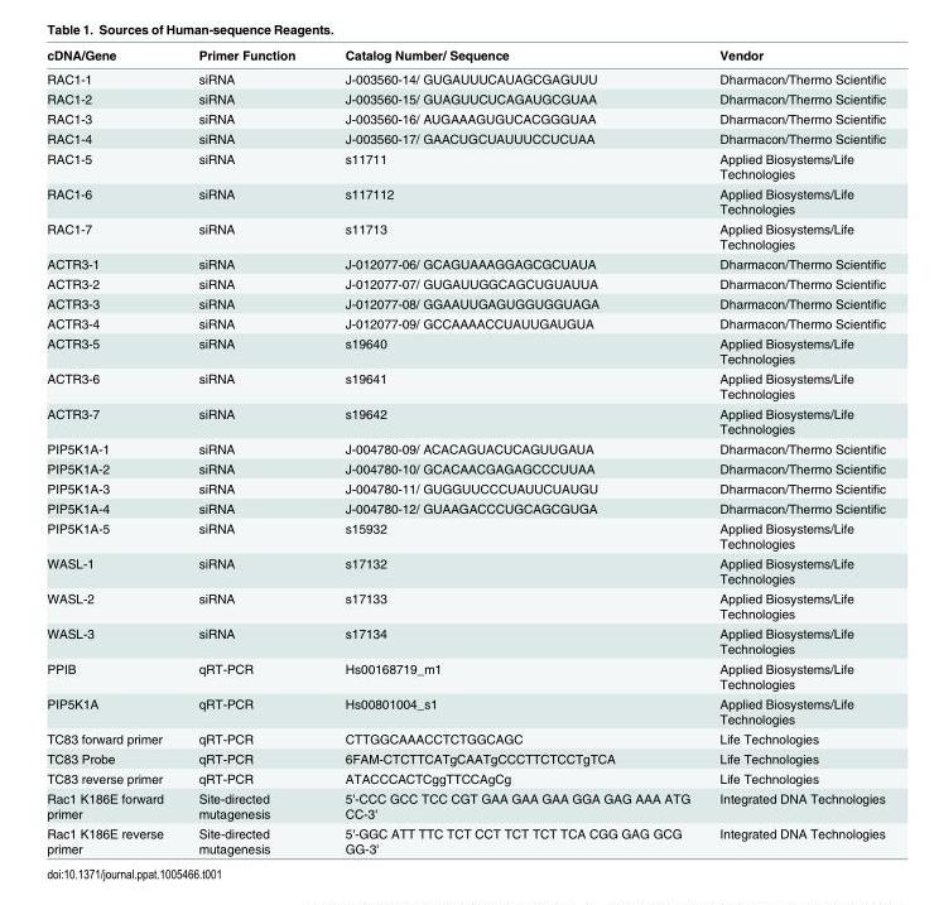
<table><thead><tr><td>cDNA/Gene</td><td>Primer Function</td><td>Catalog Number/ Sequence</td><td>Vendor</td></tr></thead><tbody><tr><td>RAC1-1</td><td>siRNA</td><td>J-003560-14/ GUGAUUUCAUAGCGAGUUU</td><td>Dharmacon/Thermo Scientific</td></tr><tr><td>RAC1-2</td><td>siRNA</td><td>J-003560-15/ GUAGUUCUCAGAUGCGUAA</td><td>Dharmacon/Thermo Scientific</td></tr><tr><td>RAC1-3</td><td>siRNA</td><td>J-003560-16/ AUGAAAGUGUCACGGGUAA</td><td>Dharmacon/Thermo Scientific</td></tr><tr><td>RAC1-4</td><td>siRNA</td><td>J-003560-17/ GAACUGCUAUUUCCUCUAA</td><td>Dharmacon/Thermo Scientific</td></tr><tr><td>RAC1-5</td><td>siRNA</td><td>s11711</td><td>Applied Biosystems/Life Technologies</td></tr><tr><td>RAC1-6</td><td>siRNA</td><td>s117112</td><td>Applied Biosystems/Life Technologies</td></tr><tr><td>RAC1-7</td><td>siRNA</td><td>s11713</td><td>Applied Biosystems/Life Technologies</td></tr><tr><td>ACTR3-1</td><td>siRNA</td><td>J-012077-06/ GCAGUAAAGGAGCGCUAUA</td><td>Dharmacon/Thermo Scientific</td></tr><tr><td>ACTR3-2</td><td>siRNA</td><td>J-012077-07/ GUGAUUGGCAGCUGUAUUA</td><td>Dharmacon/Thermo Scientific</td></tr><tr><td>ACTR3-3</td><td>siRNA</td><td>J-012077-08/ GGAAUUGAGUGGUGGUAGA</td><td>Dharmacon/Thermo Scientific</td></tr><tr><td>ACTR3-4</td><td>siRNA</td><td>J-012077-09/ GCCAAAACCUAUUGAUGUA</td><td>Dharmacon/Thermo Scientific</td></tr><tr><td>ACTR3-5</td><td>siRNA</td><td>s19640</td><td>Applied Biosystems/Life Technologies</td></tr><tr><td>ACTR3-6</td><td>siRNA</td><td>s19641</td><td>Applied Biosystems/Life Technologies</td></tr><tr><td>ACTR3-7</td><td>siRNA</td><td>s19642</td><td>Applied Biosystems/Life Technologies</td></tr><tr><td>PIP5K1A-1</td><td>siRNA</td><td>J-004780-09/ ACACAGUACUCAGUUGAUA</td><td>Dharmacon/Thermo Scientific</td></tr><tr><td>PIP5K1A-2</td><td>siRNA</td><td>J-004780-10/ GCACAACGAGAGCCCUUAA</td><td>Dharmacon/Thermo Scientific</td></tr><tr><td>PIP5K1A-3</td><td>siRNA</td><td>J-004780-11/ GUGGUUCCCUAUUCUAUGU</td><td>Dharmacon/Thermo Scientific</td></tr><tr><td>PIP5K1A-4</td><td>siRNA</td><td>J-004780-12/ GUAAGACCCUGCAGCGUGA</td><td>Dharmacon/Thermo Scientific</td></tr><tr><td>PIP5K1A-5</td><td>siRNA</td><td>s15932</td><td>Applied Biosystems/Life Technologies</td></tr><tr><td>WASL-1</td><td>siRNA</td><td>s17132</td><td>Applied Biosystems/Life Technologies</td></tr><tr><td>WASL-2</td><td>siRNA</td><td>s17133</td><td>Applied Biosystems/Life Technologies</td></tr><tr><td>WASL-3</td><td>siRNA</td><td>s17134</td><td>Applied Biosystems/Life Technologies</td></tr><tr><td>PPIB</td><td>qRT-PCR</td><td>Hs00168719_m1</td><td>Applied Biosystems/Life Technologies</td></tr><tr><td>PIP5K1A</td><td>qRT-PCR</td><td>Hs00801004_s1</td><td>Applied Biosystems/Life Technologies</td></tr><tr><td>TC83 forward primer</td><td>qRT-PCR</td><td>CTTGGCAAACCTCTGGCAGC</td><td>Life Technologies</td></tr><tr><td>TC83 Probe</td><td>qRT-PCR</td><td>6FAM-CTCTTCATgCAATgCCCTTCTCCTgTCA</td><td>Life Technologies</td></tr><tr><td>TC83 reverse primer</td><td>qRT-PCR</td><td>ATACCCACTCggTTCCAgCg</td><td>Life Technologies</td></tr><tr><td>Rac1 K186E forward primer</td><td>Site-directed mutagenesis</td><td>5&#x27;-CCC GCC TCC CGT GAA GAA GAA GGA GAG AAA ATG CC-3&#x27;</td><td>Integrated DNA Technologies</td></tr><tr><td>Rac1 K186E reverse primer</td><td>Site-directed mutagenesis</td><td>5&#x27;-GGC ATT TTC TCT CCT TCT TCT TCA CGG GAG GCG GG-3&#x27;</td><td>Integrated DNA Technologies</td></tr></tbody></table>